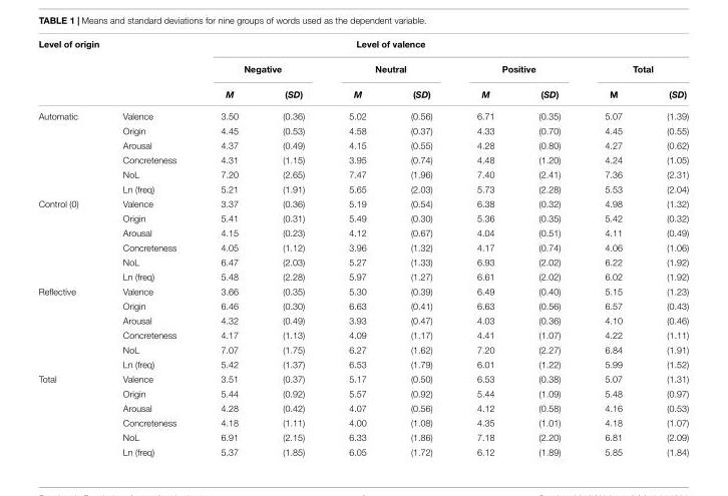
<table><thead><tr><td colspan="2">Level of origin</td><td colspan="6">Level of valence</td><td></td><td></td></tr><tr><td rowspan="2"></td><td rowspan="2"></td><td colspan="2">Negative</td><td colspan="2">Neutral</td><td colspan="2">Positive</td><td colspan="2">Total</td></tr><tr><td>M</td><td>(SD)</td><td>M</td><td>(SD)</td><td>M</td><td>(SD)</td><td>M</td><td>(SD)</td></tr></thead><tbody><tr><td rowspan="6">Automatic</td><td>Valence</td><td>3.50</td><td>(0.36)</td><td>5.02</td><td>(0.56)</td><td>6.71</td><td>(0.35)</td><td>5.07</td><td>(1.39)</td></tr><tr><td>Origin</td><td>4.45</td><td>(0.53)</td><td>4.58</td><td>(0.37)</td><td>4.33</td><td>(0.70)</td><td>4.45</td><td>(0.55)</td></tr><tr><td>Arousal</td><td>4.37</td><td>(0.49)</td><td>4.15</td><td>(0.55)</td><td>4.28</td><td>(0.80)</td><td>4.27</td><td>(0.62)</td></tr><tr><td>Concreteness</td><td>4.31</td><td>(1.15)</td><td>3.95</td><td>(0.74)</td><td>4.48</td><td>(1.20)</td><td>4.24</td><td>(1.05)</td></tr><tr><td>NoL</td><td>7.20</td><td>(2.65)</td><td>7.47</td><td>(1.96)</td><td>7.40</td><td>(2.41)</td><td>7.36</td><td>(2.31)</td></tr><tr><td>Ln (freq)</td><td>5.21</td><td>(1.91)</td><td>5.65</td><td>(2.03)</td><td>5.73</td><td>(2.28)</td><td>5.53</td><td>(2.04)</td></tr><tr><td rowspan="6">Control (0)</td><td>Valence</td><td>3.37</td><td>(0.36)</td><td>5.19</td><td>(0.54)</td><td>6.38</td><td>(0.32)</td><td>4.98</td><td>(1.32)</td></tr><tr><td>Origin</td><td>5.41</td><td>(0.31)</td><td>5.49</td><td>(0.30)</td><td>5.36</td><td>(0.35)</td><td>5.42</td><td>(0.32)</td></tr><tr><td>Arousal</td><td>4.15</td><td>(0.23)</td><td>4.12</td><td>(0.67)</td><td>4.04</td><td>(0.51)</td><td>4.11</td><td>(0.49)</td></tr><tr><td>Concreteness</td><td>4.05</td><td>(1.12)</td><td>3.96</td><td>(1.32)</td><td>4.17</td><td>(0.74)</td><td>4.06</td><td>(1.06)</td></tr><tr><td>NoL</td><td>6.47</td><td>(2.03)</td><td>5.27</td><td>(1.33)</td><td>6.93</td><td>(2.02)</td><td>6.22</td><td>(1.92)</td></tr><tr><td>Ln (freq)</td><td>5.48</td><td>(2.28)</td><td>5.97</td><td>(1.27)</td><td>6.61</td><td>(2.02)</td><td>6.02</td><td>(1.92)</td></tr><tr><td rowspan="6">Reflective</td><td>Valence</td><td>3.66</td><td>(0.35)</td><td>5.30</td><td>(0.39)</td><td>6.49</td><td>(0.40)</td><td>5.15</td><td>(1.23)</td></tr><tr><td>Origin</td><td>6.46</td><td>(0.30)</td><td>6.63</td><td>(0.41)</td><td>6.63</td><td>(0.56)</td><td>6.57</td><td>(0.43)</td></tr><tr><td>Arousal</td><td>4.32</td><td>(0.49)</td><td>3.93</td><td>(0.47)</td><td>4.03</td><td>(0.36)</td><td>4.10</td><td>(0.46)</td></tr><tr><td>Concreteness</td><td>4.17</td><td>(1.13)</td><td>4.09</td><td>(1.17)</td><td>4.41</td><td>(1.07)</td><td>4.22</td><td>(1.11)</td></tr><tr><td>NoL</td><td>7.07</td><td>(1.75)</td><td>6.27</td><td>(1.62)</td><td>7.20</td><td>(2.27)</td><td>6.84</td><td>(1.91)</td></tr><tr><td>Ln (freq)</td><td>5.42</td><td>(1.37)</td><td>6.53</td><td>(1.79)</td><td>6.01</td><td>(1.22)</td><td>5.99</td><td>(1.52)</td></tr><tr><td rowspan="6">Total</td><td>Valence</td><td>3.51</td><td>(0.37)</td><td>5.17</td><td>(0.50)</td><td>6.53</td><td>(0.38)</td><td>5.07</td><td>(1.31)</td></tr><tr><td>Origin</td><td>5.44</td><td>(0.92)</td><td>5.57</td><td>(0.92)</td><td>5.44</td><td>(1.09)</td><td>5.48</td><td>(0.97)</td></tr><tr><td>Arousal</td><td>4.28</td><td>(0.42)</td><td>4.07</td><td>(0.56)</td><td>4.12</td><td>(0.58)</td><td>4.16</td><td>(0.53)</td></tr><tr><td>Concreteness</td><td>4.18</td><td>(1.11)</td><td>4.00</td><td>(1.08)</td><td>4.35</td><td>(1.01)</td><td>4.18</td><td>(1.07)</td></tr><tr><td>NoL</td><td>6.91</td><td>(2.15)</td><td>6.33</td><td>(1.86)</td><td>7.18</td><td>(2.20)</td><td>6.81</td><td>(2.09)</td></tr><tr><td>Ln (freq)</td><td>5.37</td><td>(1.85)</td><td>6.05</td><td>(1.72)</td><td>6.12</td><td>(1.89)</td><td>5.85</td><td>(1.84)</td></tr></tbody></table>